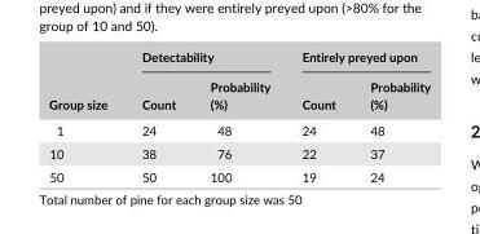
<table><thead><tr><td rowspan="2">Group size</td><td colspan="2">Detectability</td><td colspan="2">Entirely preyed upon</td></tr><tr><td>Count</td><td>Probability (%)</td><td>Count</td><td>Probability (%)</td></tr></thead><tbody><tr><td>1</td><td>24</td><td>48</td><td>24</td><td>48</td></tr><tr><td>10</td><td>38</td><td>76</td><td>22</td><td>37</td></tr><tr><td>50</td><td>50</td><td>100</td><td>19</td><td>24</td></tr></tbody></table>